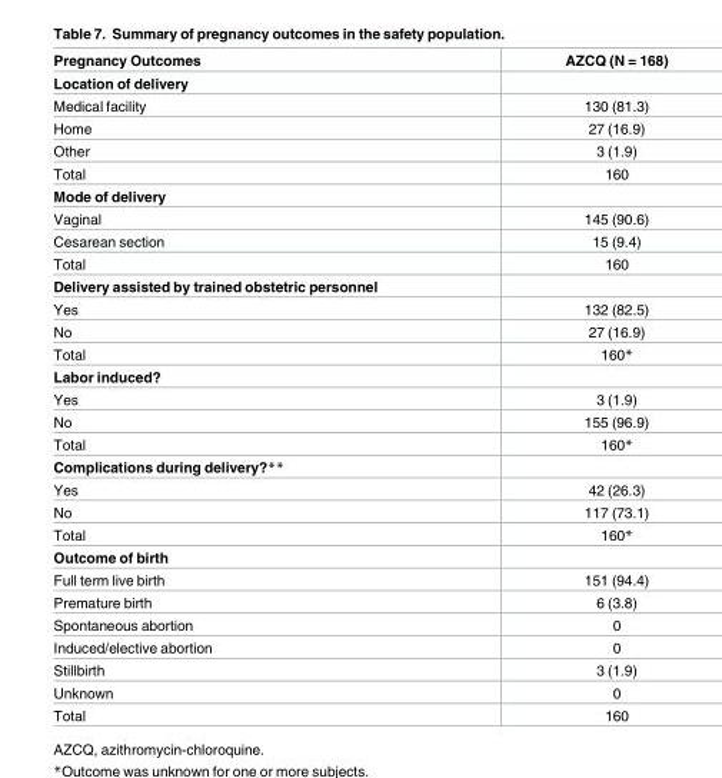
<table><thead><tr><td>Pregnancy Outcomes</td><td>AZCQ (N = 168)</td></tr></thead><tbody><tr><td colspan="2">Location of delivery</td></tr><tr><td>Medical facility</td><td>130 (81.3)</td></tr><tr><td>Home</td><td>27 (16.9)</td></tr><tr><td>Other</td><td>3 (1.9)</td></tr><tr><td>Total</td><td>160</td></tr><tr><td colspan="2">Mode of delivery</td></tr><tr><td>Vaginal</td><td>145 (90.6)</td></tr><tr><td>Cesarean section</td><td>15 (9.4)</td></tr><tr><td>Total</td><td>160</td></tr><tr><td colspan="2">Delivery assisted by trained obstetric personnel</td></tr><tr><td>Yes</td><td>132 (82.5)</td></tr><tr><td>No</td><td>27 (16.9)</td></tr><tr><td>Total</td><td>160*</td></tr><tr><td colspan="2">Labor induced?</td></tr><tr><td>Yes</td><td>3 (1.9)</td></tr><tr><td>No</td><td>155 (96.9)</td></tr><tr><td>Total</td><td>160*</td></tr><tr><td colspan="2">Complications during delivery?**</td></tr><tr><td>Yes</td><td>42 (26.3)</td></tr><tr><td>No</td><td>117 (73.1)</td></tr><tr><td>Total</td><td>160*</td></tr><tr><td colspan="2">Outcome of birth</td></tr><tr><td>Full term live birth</td><td>151 (94.4)</td></tr><tr><td>Premature birth</td><td>6 (3.8)</td></tr><tr><td>Spontaneous abortion</td><td>0</td></tr><tr><td>Induced/elective abortion</td><td>0</td></tr><tr><td>Stillbirth</td><td>3 (1.9)</td></tr><tr><td>Unknown</td><td>0</td></tr><tr><td>Total</td><td>160</td></tr></tbody></table>